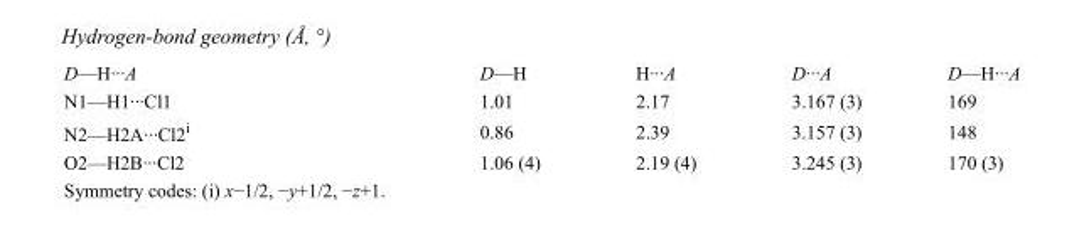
<table><tbody><tr><td>D—H···A</td><td>D—H</td><td>H···A</td><td>D···A</td><td>D—H···A</td></tr><tr><td>N1—H1···Cl1</td><td>1.01</td><td>2.17</td><td>3.167 (3)</td><td>169</td></tr><tr><td>N2—H2A···Cl2<sup>i</sup></td><td>0.86</td><td>2.39</td><td>3.157 (3)</td><td>148</td></tr><tr><td>O2—H2B···Cl2</td><td>1.06 (4)</td><td>2.19 (4)</td><td>3.245 (3)</td><td>170 (3)</td></tr></tbody></table>